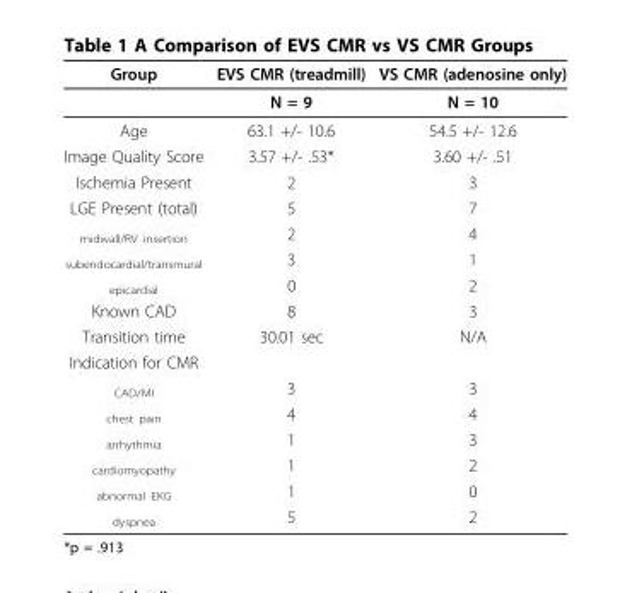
<table><thead><tr><td rowspan="2">Group</td><td rowspan="2">EVS CMR (treadmill) N = 9</td><td rowspan="2">VS CMR (adenosine only) N = 10</td></tr><tr></tr></thead><tbody><tr><td>Age</td><td>63.1 +/- 10.6</td><td>54.5 +/- 12.6</td></tr><tr><td>Image Quality Score</td><td>3.57 +/- .53*</td><td>3.60 +/- .51</td></tr><tr><td>Ischemia Present</td><td>2</td><td>3</td></tr><tr><td>LGE Present (total)</td><td>5</td><td>7</td></tr><tr><td><sub>midwall/RV insertion</sub></td><td>2</td><td>4</td></tr><tr><td><sub>subendocardial/transmural</sub></td><td>3</td><td>1</td></tr><tr><td><sub>epicardial</sub></td><td>0</td><td>2</td></tr><tr><td>Known CAD</td><td>8</td><td>3</td></tr><tr><td>Transition time</td><td>30.01 sec</td><td>N/A</td></tr><tr><td colspan="3">Indication for CMR</td></tr><tr><td><sub>CAD/MI</sub></td><td>3</td><td>3</td></tr><tr><td><sub>chest pain</sub></td><td>4</td><td>4</td></tr><tr><td><sub>arrhythmia</sub></td><td>1</td><td>3</td></tr><tr><td><sub>cardiomyopathy</sub></td><td>1</td><td>2</td></tr><tr><td><sub>abnormal EKG</sub></td><td>1</td><td>0</td></tr><tr><td><sub>dyspnea</sub></td><td>5</td><td>2</td></tr></tbody></table>